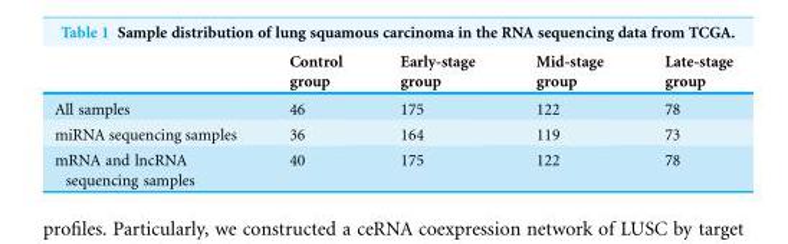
<table><thead><tr><td></td><td>Control group</td><td>Early-stage group</td><td>Mid-stage group</td><td>Late-stage group</td></tr></thead><tbody><tr><td>All samples</td><td>46</td><td>175</td><td>122</td><td>78</td></tr><tr><td>miRNA sequencing samples</td><td>36</td><td>164</td><td>119</td><td>73</td></tr><tr><td>mRNA and lncRNA sequencing samples</td><td>40</td><td>175</td><td>122</td><td>78</td></tr></tbody></table>